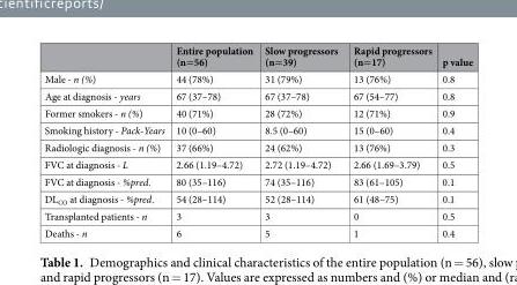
<table><thead><tr><td></td><td>Entire population (n=56)</td><td>Slow progressors (n=39)</td><td>Rapid progressors (n=17)</td><td>p value</td></tr></thead><tbody><tr><td>Male - n (%)</td><td>44 (78%)</td><td>31 (79%)</td><td>13 (76%)</td><td>0.8</td></tr><tr><td>Age at diagnosis - years</td><td>67 (37–78)</td><td>67 (37–78)</td><td>67 (54–77)</td><td>0.8</td></tr><tr><td>Former smokers - n (%)</td><td>40 (71%)</td><td>28 (72%)</td><td>12 (71%)</td><td>0.9</td></tr><tr><td>Smoking history - Pack-Years</td><td>10 (0–60)</td><td>8.5 (0–60)</td><td>15 (0–60)</td><td>0.4</td></tr><tr><td>Radiologic diagnosis - n (%)</td><td>37 (66%)</td><td>24 (62%)</td><td>13 (76%)</td><td>0.3</td></tr><tr><td>FVC at diagnosis - L</td><td>2.66 (1.19–4.72)</td><td>2.72 (1.19–4.72)</td><td>2.66 (1.69–3.79)</td><td>0.5</td></tr><tr><td>FVC at diagnosis - %pred.</td><td>80 (35–116)</td><td>74 (35–116)</td><td>83 (61–105)</td><td>0.1</td></tr><tr><td>DL<sub>CO</sub> at diagnosis - %pred.</td><td>54 (28–114)</td><td>52 (28–114)</td><td>61 (48–75)</td><td>0.1</td></tr><tr><td>Transplanted patients - n</td><td>3</td><td>3</td><td>0</td><td>0.5</td></tr><tr><td>Deaths - n</td><td>6</td><td>5</td><td>1</td><td>0.4</td></tr></tbody></table>